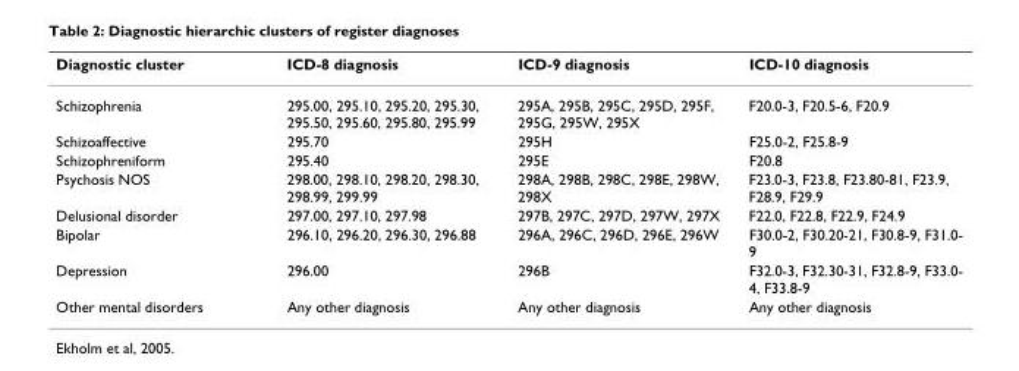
<table><thead><tr><td>Diagnostic cluster</td><td>ICD-8 diagnosis</td><td>ICD-9 diagnosis</td><td>ICD-10 diagnosis</td></tr></thead><tbody><tr><td>Schizophrenia</td><td>295.00, 295.10, 295.20, 295.30, 295.50, 295.60, 295.80, 295.99</td><td>295A, 295B, 295C, 295D, 295F, 295G, 295W, 295X</td><td>F20.0-3, F20.5-6, F20.9</td></tr><tr><td>Schizoaffective</td><td>295.70</td><td>295H</td><td>F25.0-2, F25.8-9</td></tr><tr><td>Schizophreniform</td><td>295.40</td><td>295E</td><td>F20.8</td></tr><tr><td>Psychosis NOS</td><td>298.00, 298.10, 298.20, 298.30, 298.99, 299.99</td><td>298A, 298B, 298C, 298E, 298W, 298X</td><td>F23.0-3, F23.8, F23.80-81, F23.9, F28.9, F29.9</td></tr><tr><td>Delusional disorder</td><td>297.00, 297.10, 297.98</td><td>297B, 297C, 297D, 297W, 297X</td><td>F22.0, F22.8, F22.9, F24.9</td></tr><tr><td>Bipolar</td><td>296.10, 296.20, 296.30, 296.88</td><td>296A, 296C, 296D, 296E, 296W</td><td>F30.0-2, F30.20-21, F30.8-9, F31.0- 9</td></tr><tr><td>Depression</td><td>296.00</td><td>296B</td><td>F32.0-3, F32.30-31, F32.8-9, F33.0- 4, F33.8-9</td></tr><tr><td>Other mental disorders</td><td>Any other diagnosis</td><td>Any other diagnosis</td><td>Any other diagnosis</td></tr></tbody></table>